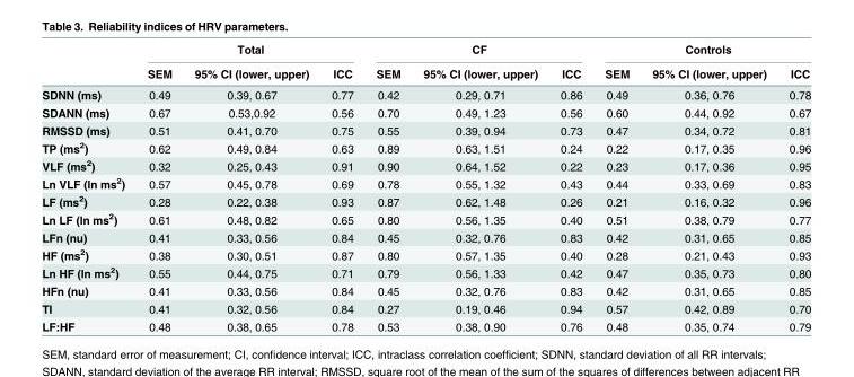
<table><thead><tr><td rowspan="2"></td><td colspan="3">Total</td><td colspan="3">CF</td><td colspan="3">Controls</td></tr><tr><td>SEM</td><td>95% CI (lower, upper)</td><td>ICC</td><td>SEM</td><td>95% CI (lower, upper)</td><td>ICC</td><td>SEM</td><td>95% CI (lower, upper)</td><td>ICC</td></tr></thead><tbody><tr><td>SDNN (ms)</td><td>0.49</td><td>0.39, 0.67</td><td>0.77</td><td>0.42</td><td>0.29, 0.71</td><td>0.86</td><td>0.49</td><td>0.36, 0.76</td><td>0.78</td></tr><tr><td>SDANN (ms)</td><td>0.67</td><td>0.53,0.92</td><td>0.56</td><td>0.70</td><td>0.49, 1.23</td><td>0.56</td><td>0.60</td><td>0.44, 0.92</td><td>0.67</td></tr><tr><td>RMSSD (ms)</td><td>0.51</td><td>0.41, 0.70</td><td>0.75</td><td>0.55</td><td>0.39, 0.94</td><td>0.73</td><td>0.47</td><td>0.34, 0.72</td><td>0.81</td></tr><tr><td>TP (ms<sup>2</sup>)</td><td>0.62</td><td>0.49, 0.84</td><td>0.63</td><td>0.89</td><td>0.63, 1.51</td><td>0.24</td><td>0.22</td><td>0.17, 0.35</td><td>0.96</td></tr><tr><td>VLF (ms<sup>2</sup>)</td><td>0.32</td><td>0.25, 0.43</td><td>0.91</td><td>0.90</td><td>0.64, 1.52</td><td>0.22</td><td>0.23</td><td>0.17, 0.36</td><td>0.95</td></tr><tr><td>Ln VLF (ln ms<sup>2</sup>)</td><td>0.57</td><td>0.45, 0.78</td><td>0.69</td><td>0.78</td><td>0.55, 1.32</td><td>0.43</td><td>0.44</td><td>0.33, 0.69</td><td>0.83</td></tr><tr><td>LF (ms<sup>2</sup>)</td><td>0.28</td><td>0.22, 0.38</td><td>0.93</td><td>0.87</td><td>0.62, 1.48</td><td>0.26</td><td>0.21</td><td>0.16, 0.32</td><td>0.96</td></tr><tr><td>Ln LF (ln ms<sup>2</sup>)</td><td>0.61</td><td>0.48, 0.82</td><td>0.65</td><td>0.80</td><td>0.56, 1.35</td><td>0.40</td><td>0.51</td><td>0.38, 0.79</td><td>0.77</td></tr><tr><td>LFn (nu)</td><td>0.41</td><td>0.33, 0.56</td><td>0.84</td><td>0.45</td><td>0.32, 0.76</td><td>0.83</td><td>0.42</td><td>0.31, 0.65</td><td>0.85</td></tr><tr><td>HF (ms<sup>2</sup>)</td><td>0.38</td><td>0.30, 0.51</td><td>0.87</td><td>0.80</td><td>0.57, 1.35</td><td>0.40</td><td>0.28</td><td>0.21, 0.43</td><td>0.93</td></tr><tr><td>Ln HF (ln ms<sup>2</sup>)</td><td>0.55</td><td>0.44, 0.75</td><td>0.71</td><td>0.79</td><td>0.56, 1.33</td><td>0.42</td><td>0.47</td><td>0.35, 0.73</td><td>0.80</td></tr><tr><td>HFn (nu)</td><td>0.41</td><td>0.33, 0.56</td><td>0.84</td><td>0.45</td><td>0.32, 0.76</td><td>0.83</td><td>0.42</td><td>0.31, 0.65</td><td>0.85</td></tr><tr><td>TI</td><td>0.41</td><td>0.32, 0.56</td><td>0.84</td><td>0.27</td><td>0.19, 0.46</td><td>0.94</td><td>0.57</td><td>0.42, 0.89</td><td>0.70</td></tr><tr><td>LF:HF</td><td>0.48</td><td>0.38, 0.65</td><td>0.78</td><td>0.53</td><td>0.38, 0.90</td><td>0.76</td><td>0.48</td><td>0.35, 0.74</td><td>0.79</td></tr></tbody></table>